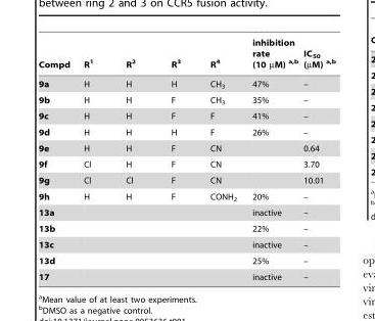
<table><thead><tr><td>Compd</td><td>R<sup>1</sup></td><td>R<sup>2</sup></td><td>R<sup>3</sup></td><td>R<sup>4</sup></td><td>inhibition rate (10 µM) a,b</td><td>IC<sub>50</sub> (µM) a,b</td></tr></thead><tbody><tr><td>9a</td><td>H</td><td>H</td><td>H</td><td>CH<sub>3</sub></td><td>47%</td><td>–</td></tr><tr><td>9b</td><td>H</td><td>H</td><td>F</td><td>CH<sub>3</sub></td><td>35%</td><td>–</td></tr><tr><td>9c</td><td>H</td><td>H</td><td>F</td><td>F</td><td>41%</td><td>–</td></tr><tr><td>9d</td><td>H</td><td>H</td><td>H</td><td>F</td><td>26%</td><td>–</td></tr><tr><td>9e</td><td>H</td><td>H</td><td>F</td><td>CN</td><td></td><td>0.64</td></tr><tr><td>9f</td><td>Cl</td><td>H</td><td>F</td><td>CN</td><td></td><td>3.70</td></tr><tr><td>9g</td><td>Cl</td><td>Cl</td><td>F</td><td>CN</td><td></td><td>10.01</td></tr><tr><td>9h</td><td>H</td><td>H</td><td>F</td><td>CONH<sub>2</sub></td><td>20%</td><td>–</td></tr><tr><td>13a</td><td colspan="4"></td><td>inactive</td><td>–</td></tr><tr><td>13b</td><td colspan="4"></td><td>22%</td><td>–</td></tr><tr><td>13c</td><td colspan="4"></td><td>inactive</td><td>–</td></tr><tr><td>13d</td><td colspan="4"></td><td>25%</td><td>–</td></tr><tr><td>17</td><td colspan="4"></td><td>inactive</td><td>–</td></tr></tbody></table>